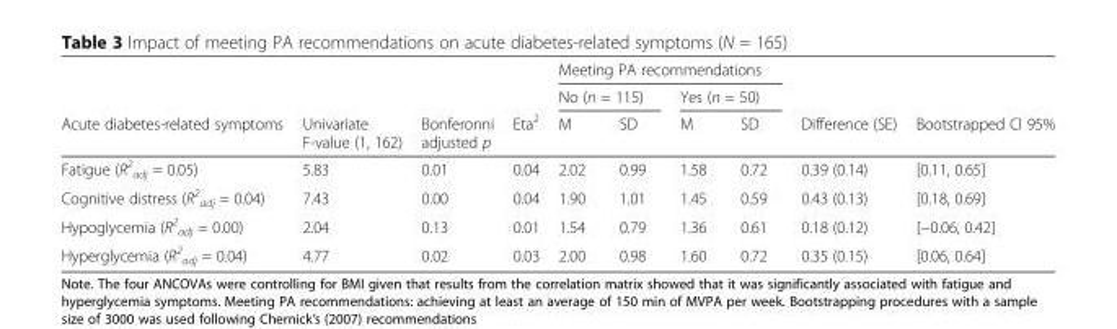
<table><thead><tr><td rowspan="3">Acute diabetes-related symptoms</td><td rowspan="3">Univariate F-value (1, 162)</td><td rowspan="3">Bonferonni adjusted p</td><td rowspan="3">Eta<sup>2</sup></td><td colspan="4">Meeting PA recommendations</td><td rowspan="3">Difference (SE)</td><td rowspan="3">Bootstrapped CI 95%</td></tr><tr><td colspan="2">No (n = 115)</td><td colspan="2">Yes (n = 50)</td></tr><tr><td>M</td><td>SD</td><td>M</td><td>SD</td></tr></thead><tbody><tr><td>Fatigue (R<sup>2</sup> <sub>adj</sub> = 0.05)</td><td>5.83</td><td>0.01</td><td>0.04</td><td>2.02</td><td>0.99</td><td>1.58</td><td>0.72</td><td>0.39 (0.14)</td><td>[0.11, 0.65]</td></tr><tr><td>Cognitive distress (R<sup>2</sup> <sub>adj</sub> = 0.04)</td><td>7.43</td><td>0.00</td><td>0.04</td><td>1.90</td><td>1.01</td><td>1.45</td><td>0.59</td><td>0.43 (0.13)</td><td>[0.18, 0.69]</td></tr><tr><td>Hypoglycemia (R<sup>2</sup> <sub>adj</sub> = 0.00)</td><td>2.04</td><td>0.13</td><td>0.01</td><td>1.54</td><td>0.79</td><td>1.36</td><td>0.61</td><td>0.18 (0.12)</td><td>[−0.06, 0.42]</td></tr><tr><td>Hyperglycemia (R<sup>2</sup> <sub>adj</sub> = 0.04)</td><td>4.77</td><td>0.02</td><td>0.03</td><td>2.00</td><td>0.98</td><td>1.60</td><td>0.72</td><td>0.35 (0.15)</td><td>[0.06, 0.64]</td></tr></tbody></table>